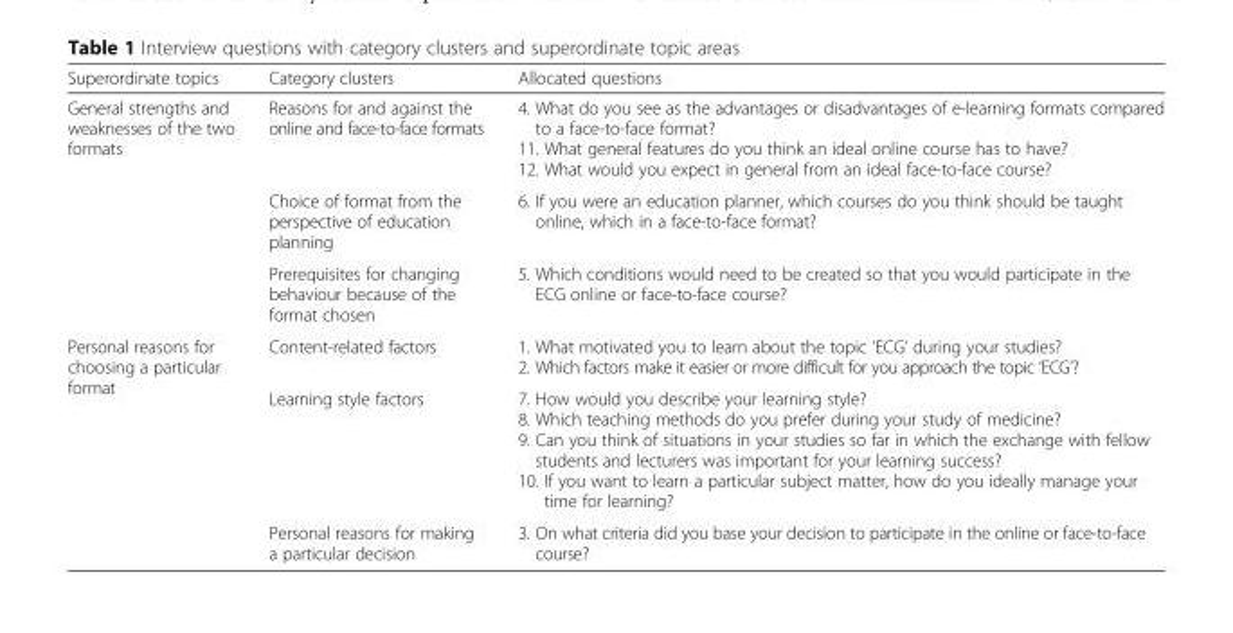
<table><thead><tr><td>Superordinate topics</td><td>Category clusters</td><td>Allocated questions</td></tr></thead><tbody><tr><td rowspan="3">General strengths and weaknesses of the two formats</td><td>Reasons for and against the online and face-to-face formats</td><td>4. What do you see as the advantages or disadvantages of e-learning formats compared to a face-to-face format? 11. What general features do you think an ideal online course has to have? 12. What would you expect in general from an ideal face-to-face course?</td></tr><tr><td>Choice of format from the perspective of education planning</td><td>6. If you were an education planner, which courses do you think should be taught online, which in a face-to-face format?</td></tr><tr><td>Prerequisites for changing behaviour because of the format chosen</td><td>5. Which conditions would need to be created so that you would participate in the ECG online or face-to-face course?</td></tr><tr><td rowspan="3">Personal reasons for choosing a particular format</td><td>Content-related factors</td><td>1. What motivated you to learn about the topic ‘ECG’ during your studies? 2. Which factors make it easier or more difficult for you approach the topic ‘ECG’?</td></tr><tr><td>Learning style factors</td><td>7. How would you describe your learning style? 8. Which teaching methods do you prefer during your study of medicine? 9. Can you think of situations in your studies so far in which the exchange with fellow students and lecturers was important for your learning success? 10. If you want to learn a particular subject matter, how do you ideally manage your time for learning?</td></tr><tr><td>Personal reasons for making a particular decision</td><td>3. On what criteria did you base your decision to participate in the online or face-to-face course?</td></tr></tbody></table>